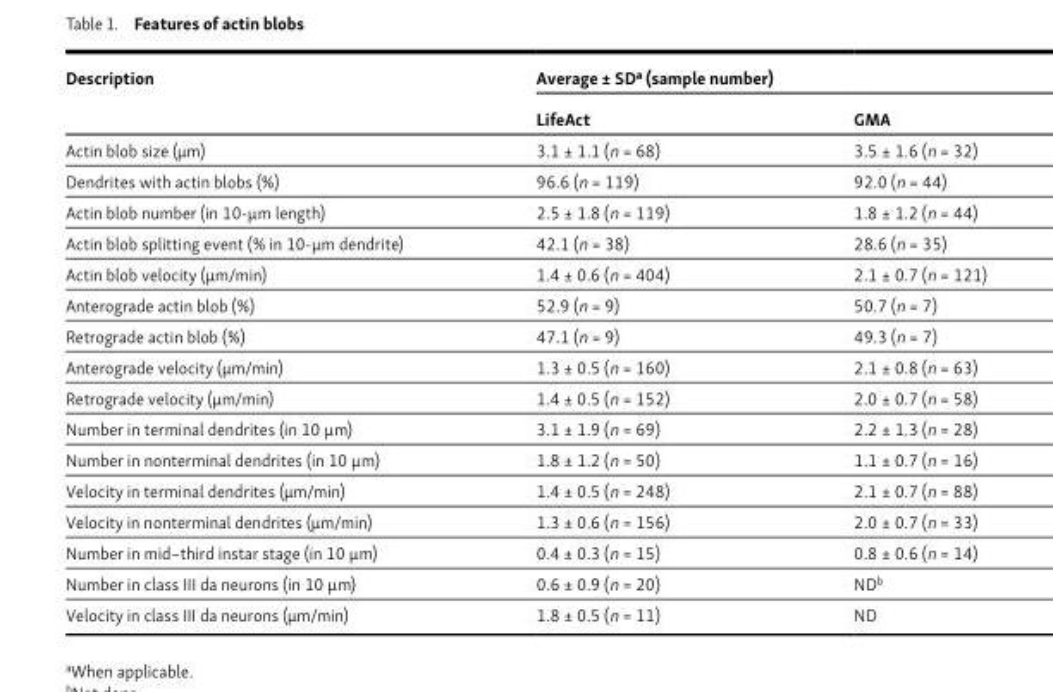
<table><thead><tr><td rowspan="2">Description</td><td colspan="2">Average ± SD<sup>a</sup> (sample number)</td></tr><tr><td>LifeAct</td><td>GMA</td></tr></thead><tbody><tr><td>Actin blob size (μm)</td><td>3.1 ± 1.1 (n = 68)</td><td>3.5 ± 1.6 (n = 32)</td></tr><tr><td>Dendrites with actin blobs (%)</td><td>96.6 (n = 119)</td><td>92.0 (n = 44)</td></tr><tr><td>Actin blob number (in 10-µm length)</td><td>2.5 ± 1.8 (n = 119)</td><td>1.8 ± 1.2 (n = 44)</td></tr><tr><td>Actin blob splitting event (% in 10-µm dendrite)</td><td>42.1 (n = 38)</td><td>28.6 (n = 35)</td></tr><tr><td>Actin blob velocity (μm/min)</td><td>1.4 ± 0.6 (n = 404)</td><td>2.1 ± 0.7 (n = 121)</td></tr><tr><td>Anterograde actin blob (%)</td><td>52.9 (n = 9)</td><td>50.7 (n = 7)</td></tr><tr><td>Retrograde actin blob (%)</td><td>47.1 (n = 9)</td><td>49.3 (n = 7)</td></tr><tr><td>Anterograde velocity (μm/min)</td><td>1.3 ± 0.5 (n = 160)</td><td>2.1 ± 0.8 (n = 63)</td></tr><tr><td>Retrograde velocity (μm/min)</td><td>1.4 ± 0.5 (n = 152)</td><td>2.0 ± 0.7 (n = 58)</td></tr><tr><td>Number in terminal dendrites (in 10 µm)</td><td>3.1 ± 1.9 (n = 69)</td><td>2.2 ± 1.3 (n = 28)</td></tr><tr><td>Number in nonterminal dendrites (in 10 µm)</td><td>1.8 ± 1.2 (n = 50)</td><td>1.1 ± 0.7 (n = 16)</td></tr><tr><td>Velocity in terminal dendrites (μm/min)</td><td>1.4 ± 0.5 (n = 248)</td><td>2.1 ± 0.7 (n = 88)</td></tr><tr><td>Velocity in nonterminal dendrites (μm/min)</td><td>1.3 ± 0.6 (n = 156)</td><td>2.0 ± 0.7 (n = 33)</td></tr><tr><td>Number in mid–third instar stage (in 10 µm)</td><td>0.4 ± 0.3 (n = 15)</td><td>0.8 ± 0.6 (n = 14)</td></tr><tr><td>Number in class III da neurons (in 10 µm)</td><td>0.6 ± 0.9 (n = 20)</td><td>ND<sup>b</sup></td></tr><tr><td>Velocity in class III da neurons (μm/min)</td><td>1.8 ± 0.5 (n = 11)</td><td>ND</td></tr></tbody></table>